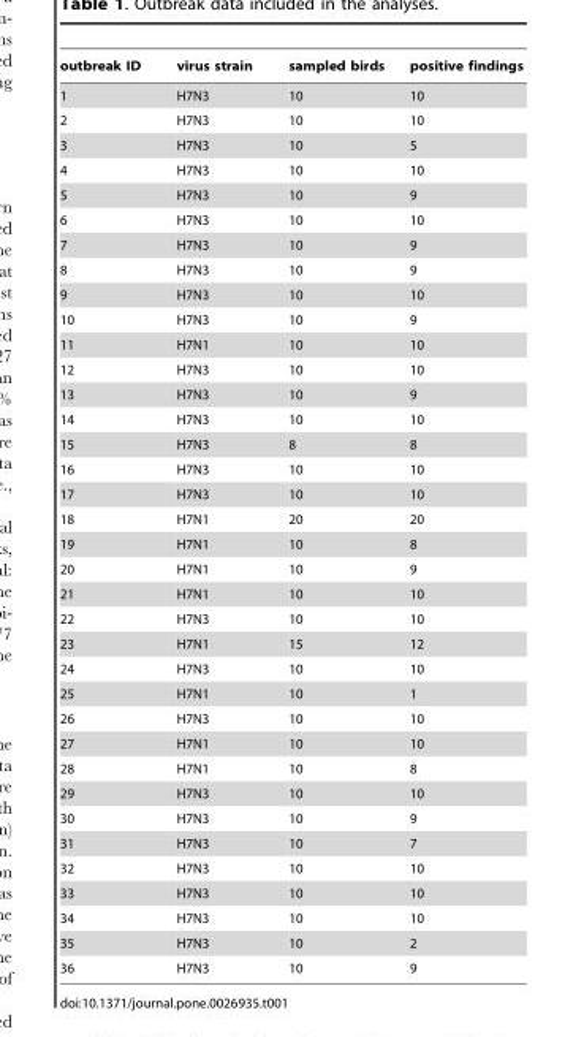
<table><thead><tr><td>outbreak ID</td><td>virus strain</td><td>sampled birds</td><td>positive findings</td></tr></thead><tbody><tr><td>1</td><td>H7N3</td><td>10</td><td>10</td></tr><tr><td>2</td><td>H7N3</td><td>10</td><td>10</td></tr><tr><td>3</td><td>H7N3</td><td>10</td><td>5</td></tr><tr><td>4</td><td>H7N3</td><td>10</td><td>10</td></tr><tr><td>5</td><td>H7N3</td><td>10</td><td>9</td></tr><tr><td>6</td><td>H7N3</td><td>10</td><td>10</td></tr><tr><td>7</td><td>H7N3</td><td>10</td><td>9</td></tr><tr><td>8</td><td>H7N3</td><td>10</td><td>9</td></tr><tr><td>9</td><td>H7N3</td><td>10</td><td>10</td></tr><tr><td>10</td><td>H7N3</td><td>10</td><td>9</td></tr><tr><td>11</td><td>H7N1</td><td>10</td><td>10</td></tr><tr><td>12</td><td>H7N3</td><td>10</td><td>10</td></tr><tr><td>13</td><td>H7N3</td><td>10</td><td>9</td></tr><tr><td>14</td><td>H7N3</td><td>10</td><td>10</td></tr><tr><td>15</td><td>H7N3</td><td>8</td><td>8</td></tr><tr><td>16</td><td>H7N3</td><td>10</td><td>10</td></tr><tr><td>17</td><td>H7N3</td><td>10</td><td>10</td></tr><tr><td>18</td><td>H7N1</td><td>20</td><td>20</td></tr><tr><td>19</td><td>H7N1</td><td>10</td><td>8</td></tr><tr><td>20</td><td>H7N1</td><td>10</td><td>9</td></tr><tr><td>21</td><td>H7N1</td><td>10</td><td>10</td></tr><tr><td>22</td><td>H7N3</td><td>10</td><td>10</td></tr><tr><td>23</td><td>H7N1</td><td>15</td><td>12</td></tr><tr><td>24</td><td>H7N3</td><td>10</td><td>10</td></tr><tr><td>25</td><td>H7N1</td><td>10</td><td>1</td></tr><tr><td>26</td><td>H7N3</td><td>10</td><td>10</td></tr><tr><td>27</td><td>H7N1</td><td>10</td><td>10</td></tr><tr><td>28</td><td>H7N1</td><td>10</td><td>8</td></tr><tr><td>29</td><td>H7N3</td><td>10</td><td>10</td></tr><tr><td>30</td><td>H7N3</td><td>10</td><td>9</td></tr><tr><td>31</td><td>H7N3</td><td>10</td><td>7</td></tr><tr><td>32</td><td>H7N3</td><td>10</td><td>10</td></tr><tr><td>33</td><td>H7N3</td><td>10</td><td>10</td></tr><tr><td>34</td><td>H7N3</td><td>10</td><td>10</td></tr><tr><td>35</td><td>H7N3</td><td>10</td><td>2</td></tr><tr><td>36</td><td>H7N3</td><td>10</td><td>9</td></tr></tbody></table>